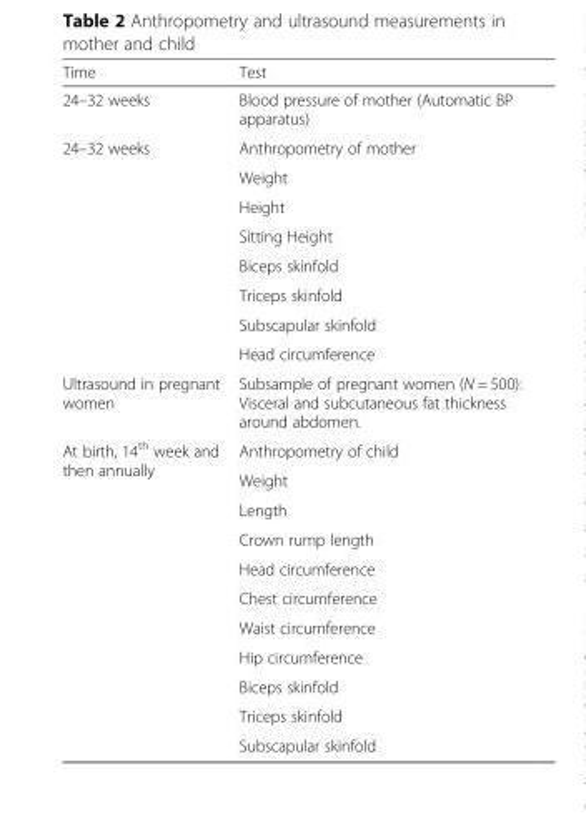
<table><thead><tr><td>Time</td><td>Test</td></tr></thead><tbody><tr><td>24–32 weeks</td><td>Blood pressure of mother (Automatic BP apparatus)</td></tr><tr><td rowspan="8">24–32 weeks</td><td>Anthropometry of mother</td></tr><tr><td>Weight</td></tr><tr><td>Height</td></tr><tr><td>Sitting Height</td></tr><tr><td>Biceps skinfold</td></tr><tr><td>Triceps skinfold</td></tr><tr><td>Subscapular skinfold</td></tr><tr><td>Head circumference</td></tr><tr><td>Ultrasound in pregnant women</td><td>Subsample of pregnant women (N = 500): Visceral and subcutaneous fat thickness around abdomen.</td></tr><tr><td rowspan="11">At birth, 14<sup>th</sup> week and then annually</td><td>Anthropometry of child</td></tr><tr><td>Weight</td></tr><tr><td>Length</td></tr><tr><td>Crown rump length</td></tr><tr><td>Head circumference</td></tr><tr><td>Chest circumference</td></tr><tr><td>Waist circumference</td></tr><tr><td>Hip circumference</td></tr><tr><td>Biceps skinfold</td></tr><tr><td>Triceps skinfold</td></tr><tr><td>Subscapular skinfold</td></tr></tbody></table>